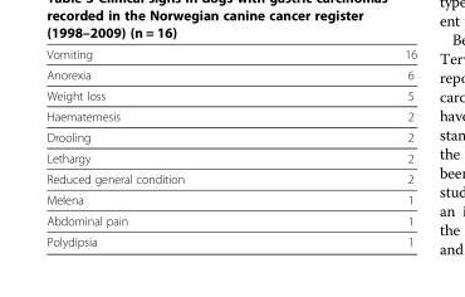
<table><tbody><tr><td>Vomiting</td><td>16</td></tr><tr><td>Anorexia</td><td>6</td></tr><tr><td>Weight loss</td><td>5</td></tr><tr><td>Haematemesis</td><td>2</td></tr><tr><td>Drooling</td><td>2</td></tr><tr><td>Lethargy</td><td>2</td></tr><tr><td>Reduced general condition</td><td>2</td></tr><tr><td>Melena</td><td>1</td></tr><tr><td>Abdominal pain</td><td>1</td></tr><tr><td>Polydipsia</td><td>1</td></tr></tbody></table>